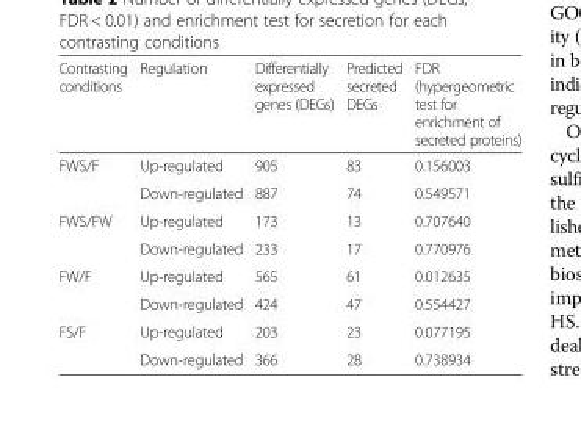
<table><thead><tr><td>Contrasting conditions</td><td>Regulation</td><td>Differentially expressed genes (DEGs)</td><td>Predicted secreted DEGs</td><td>FDR (hypergeometric test for enrichment of secreted proteins)</td></tr></thead><tbody><tr><td rowspan="2">FWS/F</td><td>Up-regulated</td><td>905</td><td>83</td><td>0.156003</td></tr><tr><td>Down-regulated</td><td>887</td><td>74</td><td>0.549571</td></tr><tr><td rowspan="2">FWS/FW</td><td>Up-regulated</td><td>173</td><td>13</td><td>0.707640</td></tr><tr><td>Down-regulated</td><td>233</td><td>17</td><td>0.770976</td></tr><tr><td rowspan="2">FW/F</td><td>Up-regulated</td><td>565</td><td>61</td><td>0.012635</td></tr><tr><td>Down-regulated</td><td>424</td><td>47</td><td>0.554427</td></tr><tr><td rowspan="2">FS/F</td><td>Up-regulated</td><td>203</td><td>23</td><td>0.077195</td></tr><tr><td>Down-regulated</td><td>366</td><td>28</td><td>0.738934</td></tr></tbody></table>